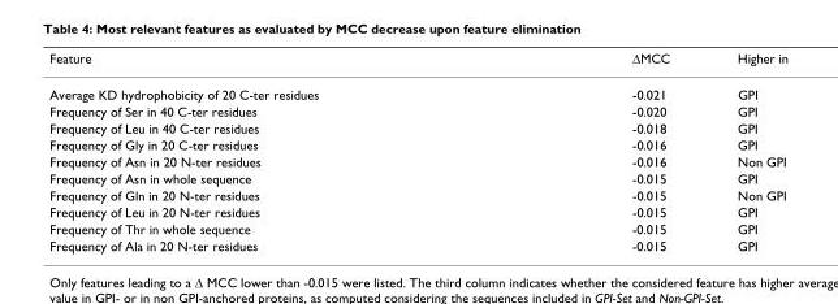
<table><thead><tr><td>Feature</td><td>ΔMCC</td><td>Higher in</td></tr></thead><tbody><tr><td>Average KD hydrophobicity of 20 C-ter residues</td><td>-0.021</td><td>GPI</td></tr><tr><td>Frequency of Ser in 40 C-ter residues</td><td>-0.020</td><td>GPI</td></tr><tr><td>Frequency of Leu in 40 C-ter residues</td><td>-0.018</td><td>GPI</td></tr><tr><td>Frequency of Gly in 20 C-ter residues</td><td>-0.016</td><td>GPI</td></tr><tr><td>Frequency of Asn in 20 N-ter residues</td><td>-0.016</td><td>Non GPI</td></tr><tr><td>Frequency of Asn in whole sequence</td><td>-0.015</td><td>GPI</td></tr><tr><td>Frequency of Gln in 20 N-ter residues</td><td>-0.015</td><td>Non GPI</td></tr><tr><td>Frequency of Leu in 20 N-ter residues</td><td>-0.015</td><td>GPI</td></tr><tr><td>Frequency of Thr in whole sequence</td><td>-0.015</td><td>GPI</td></tr><tr><td>Frequency of Ala in 20 N-ter residues</td><td>-0.015</td><td>GPI</td></tr></tbody></table>